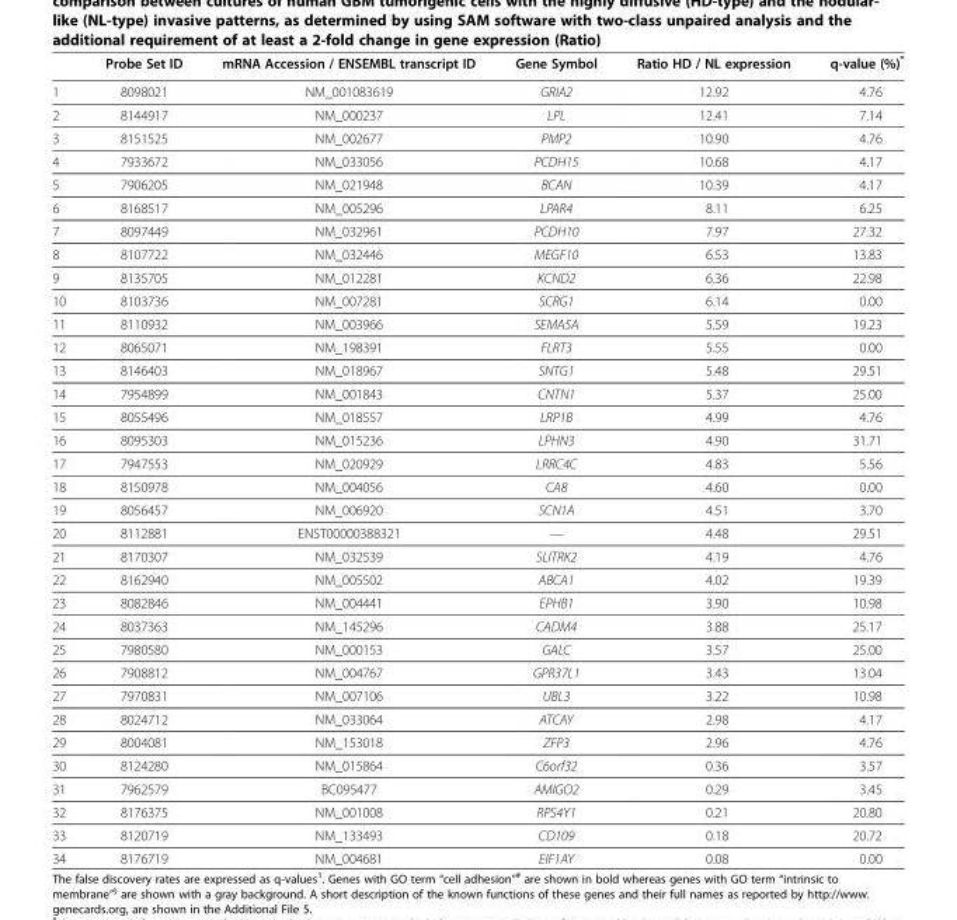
<table><thead><tr><td></td><td>Probe Set ID</td><td>mRNA Accession / ENSEMBL transcript ID</td><td>Gene Symbol</td><td>Ratio HD / NL expression</td><td>q-value (%)*</td></tr></thead><tbody><tr><td>1</td><td>8098021</td><td>NM_001083619</td><td>GRIA2</td><td>12.92</td><td>4.76</td></tr><tr><td>2</td><td>8144917</td><td>NM_000237</td><td>LPL</td><td>12.41</td><td>7.14</td></tr><tr><td>3</td><td>8151525</td><td>NM_002677</td><td>PMP2</td><td>10.90</td><td>4.76</td></tr><tr><td>4</td><td>7933672</td><td>NM_033056</td><td>PCDH15</td><td>10.68</td><td>4.17</td></tr><tr><td>5</td><td>7906205</td><td>NM_021948</td><td>BCAN</td><td>10.39</td><td>4.17</td></tr><tr><td>6</td><td>8168517</td><td>NM_005296</td><td>LPAR4</td><td>8.11</td><td>6.25</td></tr><tr><td>7</td><td>8097449</td><td>NM_032961</td><td>PCDH10</td><td>7.97</td><td>27.32</td></tr><tr><td>8</td><td>8107722</td><td>NM_032446</td><td>MEGF10</td><td>6.53</td><td>13.83</td></tr><tr><td>9</td><td>8135705</td><td>NM_012281</td><td>KCND2</td><td>6.36</td><td>22.98</td></tr><tr><td>10</td><td>8103736</td><td>NM_007281</td><td>SCRG1</td><td>6.14</td><td>0.00</td></tr><tr><td>11</td><td>8110932</td><td>NM_003966</td><td>SEMA5A</td><td>5.59</td><td>19.23</td></tr><tr><td>12</td><td>8065071</td><td>NM_198391</td><td>FLRT3</td><td>5.55</td><td>0.00</td></tr><tr><td>13</td><td>8146403</td><td>NM_018967</td><td>SNTG1</td><td>5.48</td><td>29.51</td></tr><tr><td>14</td><td>7954899</td><td>NM_001843</td><td>CNTN1</td><td>5.37</td><td>25.00</td></tr><tr><td>15</td><td>8055496</td><td>NM_018557</td><td>LRP1B</td><td>4.99</td><td>4.76</td></tr><tr><td>16</td><td>8095303</td><td>NM_015236</td><td>LPHN3</td><td>4.90</td><td>31.71</td></tr><tr><td>17</td><td>7947553</td><td>NM_020929</td><td>LRRC4C</td><td>4.83</td><td>5.56</td></tr><tr><td>18</td><td>8150978</td><td>NM_004056</td><td>CA8</td><td>4.60</td><td>0.00</td></tr><tr><td>19</td><td>8056457</td><td>NM_006920</td><td>SCN1A</td><td>4.51</td><td>3.70</td></tr><tr><td>20</td><td>8112881</td><td>ENST00000388321</td><td>—</td><td>4.48</td><td>29.51</td></tr><tr><td>21</td><td>8170307</td><td>NM_032539</td><td>SLITRK2</td><td>4.19</td><td>4.76</td></tr><tr><td>22</td><td>8162940</td><td>NM_005502</td><td>ABCA1</td><td>4.02</td><td>19.39</td></tr><tr><td>23</td><td>8082846</td><td>NM_004441</td><td>EPHB1</td><td>3.90</td><td>10.98</td></tr><tr><td>24</td><td>8037363</td><td>NM_145296</td><td>CADM4</td><td>3.88</td><td>25.17</td></tr><tr><td>25</td><td>7980580</td><td>NM_000153</td><td>GALC</td><td>3.57</td><td>25.00</td></tr><tr><td>26</td><td>7908812</td><td>NM_004767</td><td>GPR37L1</td><td>3.43</td><td>13.04</td></tr><tr><td>27</td><td>7970831</td><td>NM_007106</td><td>UBL3</td><td>3.22</td><td>10.98</td></tr><tr><td>28</td><td>8024712</td><td>NM_033064</td><td>ATCAY</td><td>2.98</td><td>4.17</td></tr><tr><td>29</td><td>8004081</td><td>NM_153018</td><td>ZFP3</td><td>2.96</td><td>4.76</td></tr><tr><td>30</td><td>8124280</td><td>NM_015864</td><td>C6orf32</td><td>0.36</td><td>3.57</td></tr><tr><td>31</td><td>7962579</td><td>BC095477</td><td>AMIGO2</td><td>0.29</td><td>3.45</td></tr><tr><td>32</td><td>8176375</td><td>NM_001008</td><td>RPS4Y1</td><td>0.21</td><td>20.80</td></tr><tr><td>33</td><td>8120719</td><td>NM_133493</td><td>CD109</td><td>0.18</td><td>20.72</td></tr><tr><td>34</td><td>8176719</td><td>NM_004681</td><td>EIF1AY</td><td>0.08</td><td>0.00</td></tr></tbody></table>